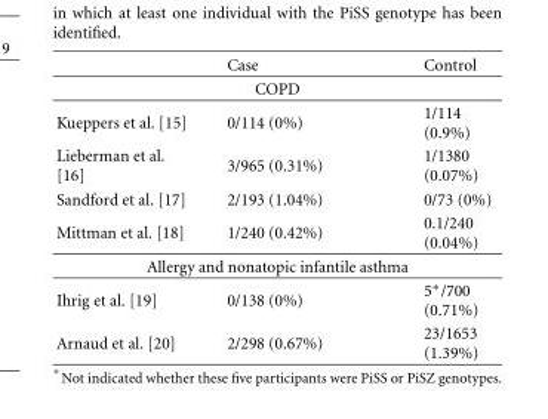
<table><thead><tr><td></td><td>Case</td><td>Control</td></tr></thead><tbody><tr><td colspan="3">COPD</td></tr><tr><td>Kueppers et al. [15]</td><td>0/114 (0%)</td><td>1/114 (0.9%)</td></tr><tr><td>Lieberman et al. [16]</td><td>3/965 (0.31%)</td><td>1/1380 (0.07%)</td></tr><tr><td>Sandford et al. [17]</td><td>2/193 (1.04%)</td><td>0/73 (0%)</td></tr><tr><td>Mittman et al. [18]</td><td>1/240 (0.42%)</td><td>0.1/240 (0.04%)</td></tr><tr><td colspan="3">Allergy and nonatopic infantile asthma</td></tr><tr><td>Ihrig et al. [19]</td><td>0/138 (0%)</td><td>5∗/700 (0.71%)</td></tr><tr><td>Arnaud et al. [20]</td><td>2/298 (0.67%)</td><td>23/1653 (1.39%)</td></tr></tbody></table>